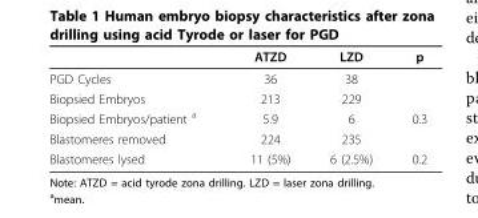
<table><thead><tr><td></td><td>ATZD</td><td>LZD</td><td>p</td></tr></thead><tbody><tr><td>PGD Cycles</td><td>36</td><td>38</td><td></td></tr><tr><td>Biopsied Embryos</td><td>213</td><td>229</td><td></td></tr><tr><td>Biopsied Embryos/patient <sup>a</sup></td><td>5.9</td><td>6</td><td>0.3</td></tr><tr><td>Blastomeres removed</td><td>224</td><td>235</td><td></td></tr><tr><td>Blastomeres lysed</td><td>11 (5%)</td><td>6 (2.5%)</td><td>0.2</td></tr></tbody></table>